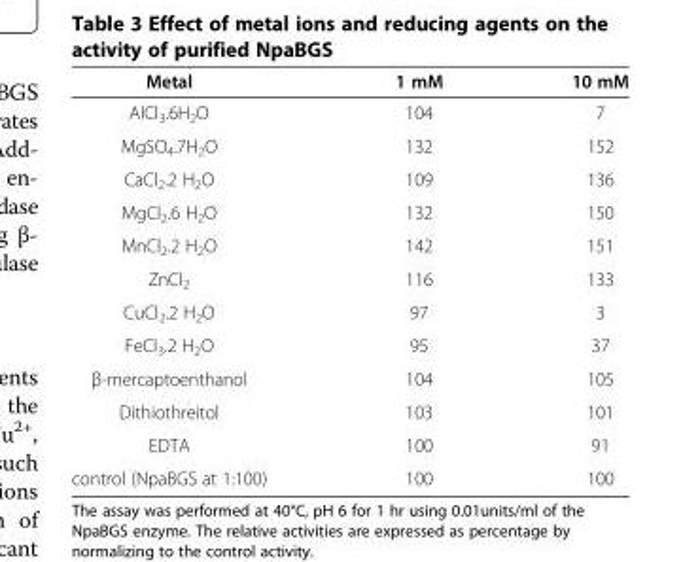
<table><thead><tr><td>Metal</td><td>1 mM</td><td>10 mM</td></tr></thead><tbody><tr><td>AlCl<sub>3</sub>.6H<sub>2</sub>O</td><td>104</td><td>7</td></tr><tr><td>MgSO<sub>4</sub>.7H<sub>2</sub>O</td><td>132</td><td>152</td></tr><tr><td>CaCl<sub>2</sub>.2 H<sub>2</sub>O</td><td>109</td><td>136</td></tr><tr><td>MgCl<sub>2</sub>.6 H<sub>2</sub>O</td><td>132</td><td>150</td></tr><tr><td>MnCl<sub>2</sub>.2 H<sub>2</sub>O</td><td>142</td><td>151</td></tr><tr><td>ZnCl<sub>2</sub></td><td>116</td><td>133</td></tr><tr><td>CuCl<sub>2</sub>.2 H<sub>2</sub>O</td><td>97</td><td>3</td></tr><tr><td>FeCl<sub>3</sub>.2 H<sub>2</sub>O</td><td>95</td><td>37</td></tr><tr><td>β-mercaptoenthanol</td><td>104</td><td>105</td></tr><tr><td>Dithiothreitol</td><td>103</td><td>101</td></tr><tr><td>EDTA</td><td>100</td><td>91</td></tr><tr><td>control (NpaBGS at 1:100)</td><td>100</td><td>100</td></tr></tbody></table>